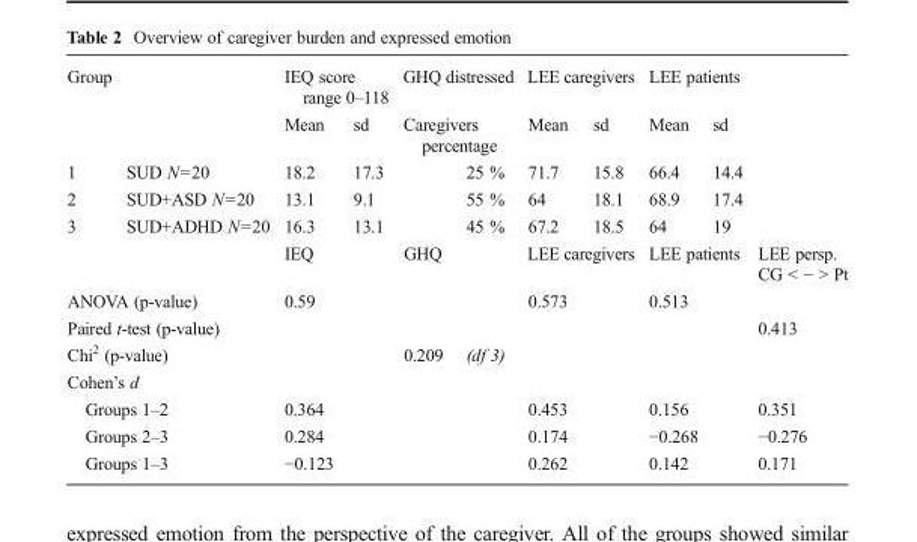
<table><tbody><tr><td rowspan="2">Group</td><td rowspan="2"></td><td colspan="2">IEQ score range 0–118</td><td colspan="2">GHQ distressed</td><td colspan="2">LEE caregivers</td><td colspan="2">LEE patients</td><td></td></tr><tr><td>Mean</td><td>sd</td><td colspan="2">Caregivers percentage</td><td>Mean</td><td>sd</td><td>Mean</td><td>sd</td><td></td></tr><tr><td>1</td><td>SUD N=20</td><td>18.2</td><td>17.3</td><td></td><td>25 %</td><td>71.7</td><td>15.8</td><td>66.4</td><td>14.4</td><td></td></tr><tr><td>2</td><td>SUD+ASD N=20</td><td>13.1</td><td>9.1</td><td></td><td>55 %</td><td>64</td><td>18.1</td><td>68.9</td><td>17.4</td><td></td></tr><tr><td>3</td><td>SUD+ADHD N=20</td><td>16.3</td><td>13.1</td><td></td><td>45 %</td><td>67.2</td><td>18.5</td><td>64</td><td>19</td><td></td></tr><tr><td colspan="2"></td><td>IEQ</td><td></td><td>GHQ</td><td></td><td colspan="2">LEE caregivers</td><td colspan="2">LEE patients</td><td>LEE persp. CG &lt; − &gt; Pt</td></tr><tr><td colspan="2">ANOVA (p-value)</td><td>0.59</td><td></td><td></td><td></td><td>0.573</td><td></td><td>0.513</td><td></td><td></td></tr><tr><td colspan="2">Paired t-test (p-value)</td><td></td><td></td><td></td><td></td><td></td><td></td><td></td><td></td><td>0.413</td></tr><tr><td colspan="2">Chi<sup>2</sup> (p-value)</td><td></td><td></td><td>0.209</td><td>(df 3)</td><td></td><td></td><td></td><td></td><td></td></tr><tr><td colspan="11">Cohen’s d</td></tr><tr><td colspan="2">Groups 1–2</td><td>0.364</td><td></td><td></td><td></td><td>0.453</td><td></td><td>0.156</td><td></td><td>0.351</td></tr><tr><td colspan="2">Groups 2–3</td><td>0.284</td><td></td><td></td><td></td><td>0.174</td><td></td><td>−0.268</td><td></td><td>−0.276</td></tr><tr><td colspan="2">Groups 1–3</td><td>−0.123</td><td></td><td></td><td></td><td>0.262</td><td></td><td>0.142</td><td></td><td>0.171</td></tr></tbody></table>